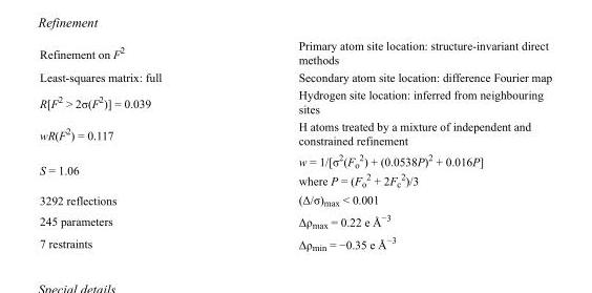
<table><tbody><tr><td>Refinement on F<sup>2</sup></td><td>Primary atom site location: structure-invariant direct methods</td></tr><tr><td>Least-squares matrix: full</td><td>Secondary atom site location: difference Fourier map</td></tr><tr><td>R[F<sup>2</sup> &gt; 2σ(F<sup>2</sup>)] = 0.039</td><td>Hydrogen site location: inferred from neighbouring sites</td></tr><tr><td>wR(F<sup>2</sup>) = 0.117</td><td>H atoms treated by a mixture of independent and constrained refinement</td></tr><tr><td>S = 1.06</td><td>w = 1/[σ<sup>2</sup>(F<sub>o</sub> <sup>2</sup>) + (0.0538P)<sup>2</sup> + 0.016P] where P = (F<sub>o</sub> <sup>2</sup> + 2F<sub>c</sub> <sup>2</sup>)/3</td></tr><tr><td>3292 reflections</td><td>(Δ/σ)<sub>max</sub> &lt; 0.001</td></tr><tr><td>245 parameters</td><td>Δρ<sub>max</sub> = 0.22 e Å<sup>−3</sup></td></tr><tr><td>7 restraints</td><td>Δρ<sub>min</sub> = −0.35 e Å<sup>−3</sup></td></tr></tbody></table>